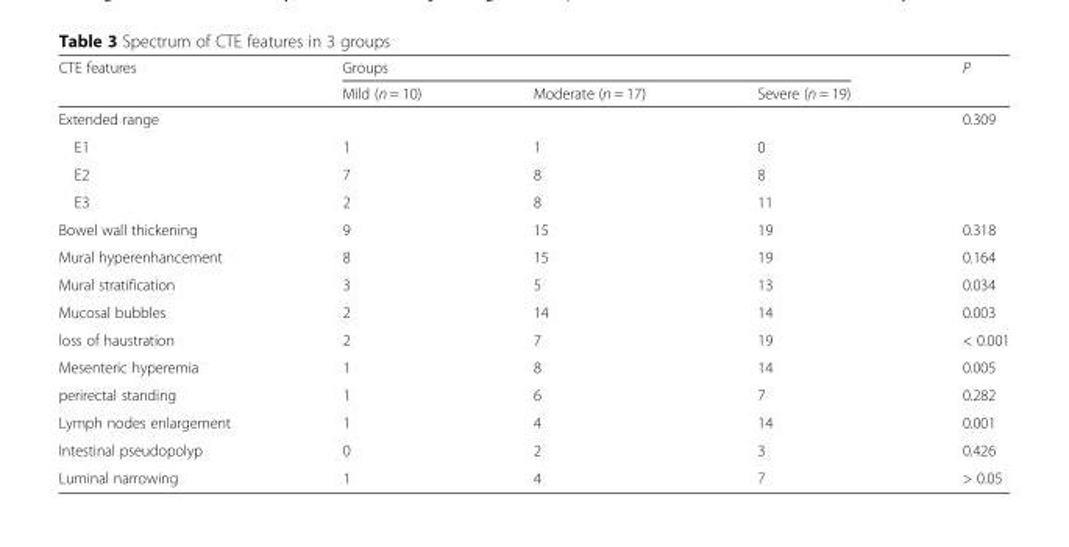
<table><thead><tr><td rowspan="2">CTE features</td><td colspan="3">Groups</td><td rowspan="2">P</td></tr><tr><td>Mild (n = 10)</td><td>Moderate (n = 17)</td><td>Severe (n = 19)</td></tr></thead><tbody><tr><td>Extended range</td><td></td><td></td><td></td><td>0.309</td></tr><tr><td>E1</td><td>1</td><td>1</td><td>0</td><td></td></tr><tr><td>E2</td><td>7</td><td>8</td><td>8</td><td></td></tr><tr><td>E3</td><td>2</td><td>8</td><td>11</td><td></td></tr><tr><td>Bowel wall thickening</td><td>9</td><td>15</td><td>19</td><td>0.318</td></tr><tr><td>Mural hyperenhancement</td><td>8</td><td>15</td><td>19</td><td>0.164</td></tr><tr><td>Mural stratification</td><td>3</td><td>5</td><td>13</td><td>0.034</td></tr><tr><td>Mucosal bubbles</td><td>2</td><td>14</td><td>14</td><td>0.003</td></tr><tr><td>loss of haustration</td><td>2</td><td>7</td><td>19</td><td>&lt; 0.001</td></tr><tr><td>Mesenteric hyperemia</td><td>1</td><td>8</td><td>14</td><td>0.005</td></tr><tr><td>perirectal standing</td><td>1</td><td>6</td><td>7</td><td>0.282</td></tr><tr><td>Lymph nodes enlargement</td><td>1</td><td>4</td><td>14</td><td>0.001</td></tr><tr><td>Intestinal pseudopolyp</td><td>0</td><td>2</td><td>3</td><td>0.426</td></tr><tr><td>Luminal narrowing</td><td>1</td><td>4</td><td>7</td><td>&gt; 0.05</td></tr></tbody></table>